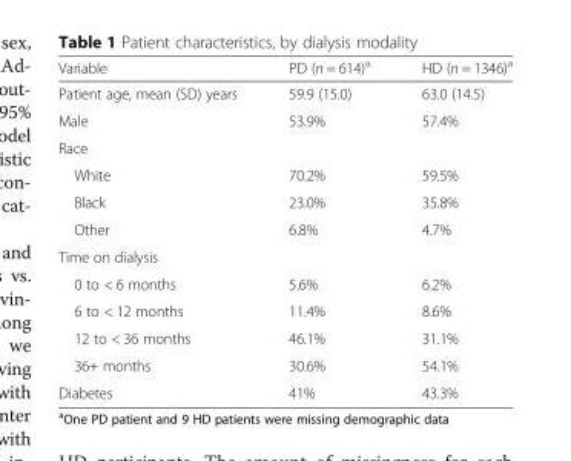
<table><thead><tr><td>Variable</td><td>PD (n = 614)<sup>a</sup></td><td>HD (n = 1346)<sup>a</sup></td></tr></thead><tbody><tr><td>Patient age, mean (SD) years</td><td>59.9 (15.0)</td><td>63.0 (14.5)</td></tr><tr><td>Male</td><td>53.9%</td><td>57.4%</td></tr><tr><td colspan="3">Race</td></tr><tr><td>White</td><td>70.2%</td><td>59.5%</td></tr><tr><td>Black</td><td>23.0%</td><td>35.8%</td></tr><tr><td>Other</td><td>6.8%</td><td>4.7%</td></tr><tr><td colspan="3">Time on dialysis</td></tr><tr><td>0 to &lt; 6 months</td><td>5.6%</td><td>6.2%</td></tr><tr><td>6 to &lt; 12 months</td><td>11.4%</td><td>8.6%</td></tr><tr><td>12 to &lt; 36 months</td><td>46.1%</td><td>31.1%</td></tr><tr><td>36+ months</td><td>30.6%</td><td>54.1%</td></tr><tr><td>Diabetes</td><td>41%</td><td>43.3%</td></tr></tbody></table>